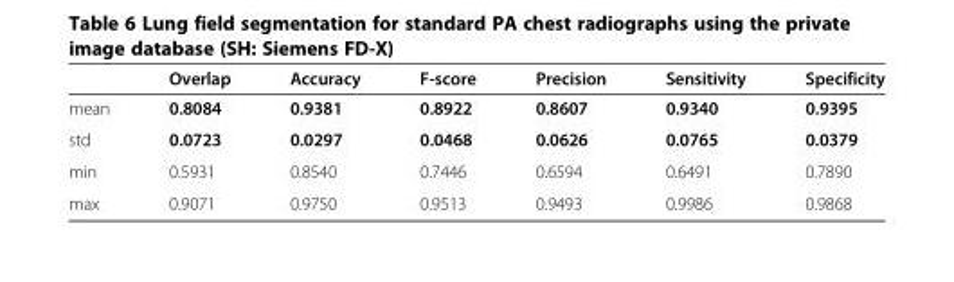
<table><thead><tr><td></td><td>Overlap</td><td>Accuracy</td><td>F-score</td><td>Precision</td><td>Sensitivity</td><td>Specificity</td></tr></thead><tbody><tr><td>mean</td><td>0.8084</td><td>0.9381</td><td>0.8922</td><td>0.8607</td><td>0.9340</td><td>0.9395</td></tr><tr><td>std</td><td>0.0723</td><td>0.0297</td><td>0.0468</td><td>0.0626</td><td>0.0765</td><td>0.0379</td></tr><tr><td>min</td><td>0.5931</td><td>0.8540</td><td>0.7446</td><td>0.6594</td><td>0.6491</td><td>0.7890</td></tr><tr><td>max</td><td>0.9071</td><td>0.9750</td><td>0.9513</td><td>0.9493</td><td>0.9986</td><td>0.9868</td></tr></tbody></table>